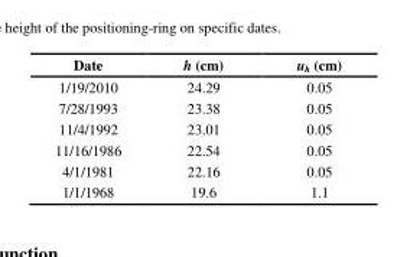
<table><thead><tr><td>Date</td><td>h (cm)</td><td>uh (cm)</td></tr></thead><tbody><tr><td>1/19/2010</td><td>24.29</td><td>0.05</td></tr><tr><td>7/28/1993</td><td>23.38</td><td>0.05</td></tr><tr><td>11/4/1992</td><td>23.01</td><td>0.05</td></tr><tr><td>11/16/1986</td><td>22.54</td><td>0.05</td></tr><tr><td>4/1/1981</td><td>22.16</td><td>0.05</td></tr><tr><td>1/1/1968</td><td>19.6</td><td>1.1</td></tr></tbody></table>